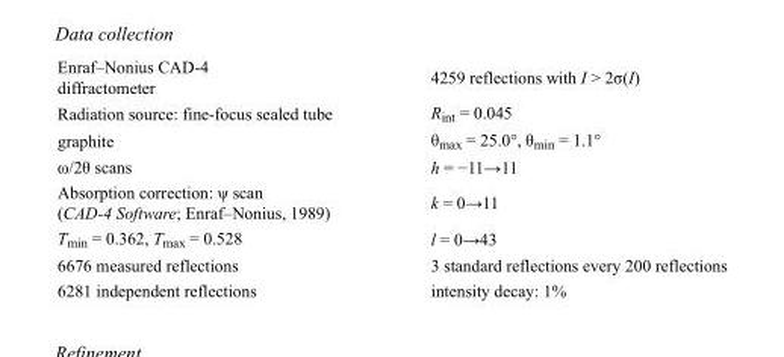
<table><tbody><tr><td>Enraf–Nonius CAD-4 diffractometer</td><td>4259 reflections with I &gt; 2σ(I)</td></tr><tr><td>Radiation source: fine-focus sealed tube</td><td>R<sub>int</sub> = 0.045</td></tr><tr><td>graphite</td><td>θ<sub>max</sub> = 25.0°, θ<sub>min</sub> = 1.1°</td></tr><tr><td>ω/2θ scans</td><td>h = −11→11</td></tr><tr><td>Absorption correction: ψ scan (CAD-4 Software; Enraf–Nonius, 1989)</td><td>k = 0→11</td></tr><tr><td>T<sub>min</sub> = 0.362, T<sub>max</sub> = 0.528</td><td>l = 0→43</td></tr><tr><td>6676 measured reflections</td><td>3 standard reflections every 200 reflections</td></tr><tr><td>6281 independent reflections</td><td>intensity decay: 1%</td></tr></tbody></table>